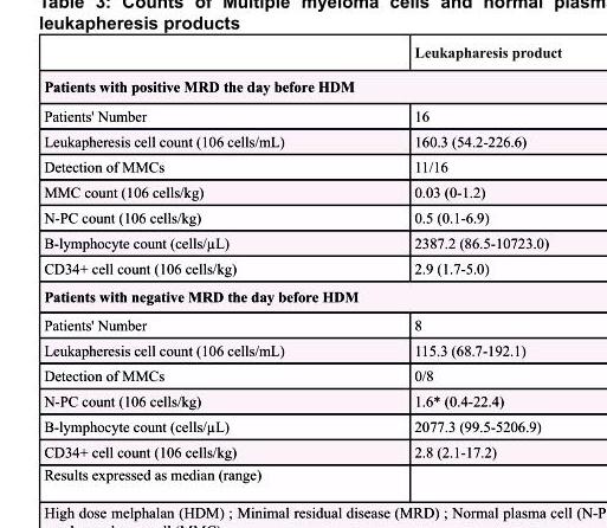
<table><thead><tr><td></td><td>leukapharesis product</td></tr></thead><tbody><tr><td colspan="2">Patients with positive Mrd the day before HdM</td></tr><tr><td>Patients&#x27; Number</td><td>16</td></tr><tr><td>Leukapheresis cell count (106 cells/mL)</td><td>160.3 (54.2-226.6)</td></tr><tr><td>Detection of MMCs</td><td>11/16</td></tr><tr><td>MMC count (106 cells/kg)</td><td>0.03 (0-1.2)</td></tr><tr><td>N-PC count (106 cells/kg)</td><td>0.5 (0.1-6.9)</td></tr><tr><td>B-lymphocyte count (cells/µL)</td><td>2387.2 (86.5-10723.0)</td></tr><tr><td>CD34+ cell count (106 cells/kg)</td><td>2.9 (1.7-5.0)</td></tr><tr><td colspan="2">Patients with negative Mrd the day before HdM</td></tr><tr><td>Patients&#x27; Number</td><td>8</td></tr><tr><td>Leukapheresis cell count (106 cells/mL)</td><td>115.3 (68.7-192.1)</td></tr><tr><td>Detection of MMCs</td><td>0/8</td></tr><tr><td>N-PC count (106 cells/kg)</td><td>1.6* (0.4-22.4)</td></tr><tr><td>B-lymphocyte count (cells/µL)</td><td>2077.3 (99.5-5206.9)</td></tr><tr><td>CD34+ cell count (106 cells/kg)</td><td>2.8 (2.1-17.2)</td></tr><tr><td>Results expressed as median (range)</td><td></td></tr></tbody></table>